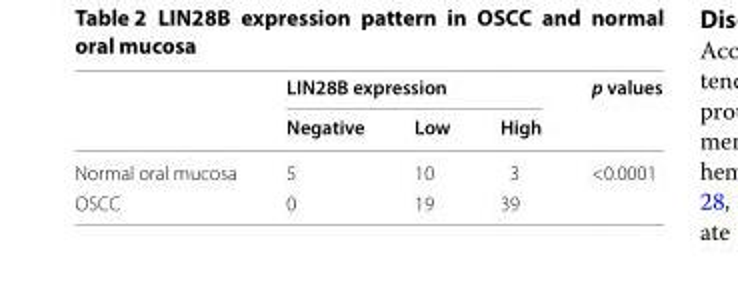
<table><thead><tr><td rowspan="2"></td><td colspan="3">LIN28B expression</td><td rowspan="2">p values</td></tr><tr><td>Negative</td><td>Low</td><td>High</td></tr></thead><tbody><tr><td>Normal oral mucosa</td><td>5</td><td>10</td><td>3</td><td>&lt;0.0001</td></tr><tr><td>OSCC</td><td>0</td><td>19</td><td>39</td><td></td></tr></tbody></table>